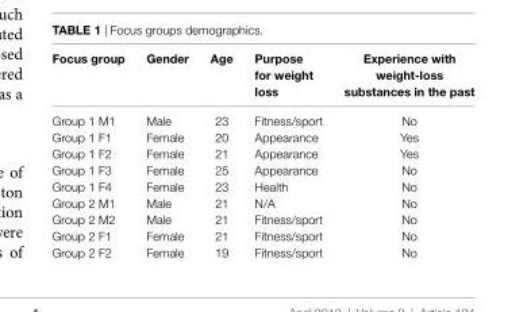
<table><thead><tr><td>Focus group</td><td>gender</td><td>age</td><td>Purpose for weight loss</td><td>experience with weight-loss substances in the past</td></tr></thead><tbody><tr><td>Group 1 M1</td><td>Male</td><td>23</td><td>Fitness/sport</td><td>No</td></tr><tr><td>Group 1 F1</td><td>Female</td><td>20</td><td>Appearance</td><td>Yes</td></tr><tr><td>Group 1 F2</td><td>Female</td><td>21</td><td>Appearance</td><td>Yes</td></tr><tr><td>Group 1 F3</td><td>Female</td><td>25</td><td>Appearance</td><td>No</td></tr><tr><td>Group 1 F4</td><td>Female</td><td>23</td><td>Health</td><td>No</td></tr><tr><td>Group 2 M1</td><td>Male</td><td>21</td><td>N/A</td><td>No</td></tr><tr><td>Group 2 M2</td><td>Male</td><td>21</td><td>Fitness/sport</td><td>No</td></tr><tr><td>Group 2 F1</td><td>Female</td><td>21</td><td>Fitness/sport</td><td>No</td></tr><tr><td>Group 2 F2</td><td>Female</td><td>19</td><td>Fitness/sport</td><td>No</td></tr></tbody></table>